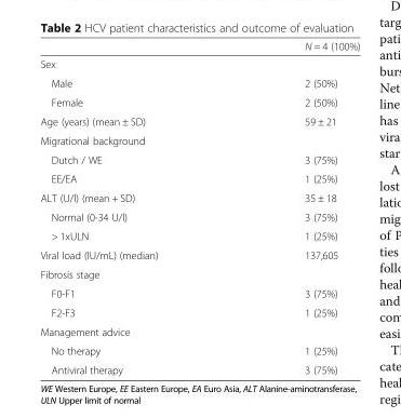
<table><thead><tr><td></td><td>N = 4 (100%)</td></tr></thead><tbody><tr><td colspan="2">Sex</td></tr><tr><td>Male</td><td>2 (50%)</td></tr><tr><td>Female</td><td>2 (50%)</td></tr><tr><td>Age (years) (mean ± SD)</td><td>59 ± 21</td></tr><tr><td colspan="2">Migrational background</td></tr><tr><td>Dutch / WE</td><td>3 (75%)</td></tr><tr><td>EE/EA</td><td>1 (25%)</td></tr><tr><td>ALT (U/l) (mean + SD)</td><td>35 ± 18</td></tr><tr><td>Normal (0-34 U/l)</td><td>3 (75%)</td></tr><tr><td>&gt; 1xULN</td><td>1 (25%)</td></tr><tr><td>Viral load (IU/mL) (median)</td><td>137,605</td></tr><tr><td colspan="2">Fibrosis stage</td></tr><tr><td>F0-F1</td><td>3 (75%)</td></tr><tr><td>F2-F3</td><td>1 (25%)</td></tr><tr><td colspan="2">Management advice</td></tr><tr><td>No therapy</td><td>1 (25%)</td></tr><tr><td>Antiviral therapy</td><td>3 (75%)</td></tr></tbody></table>